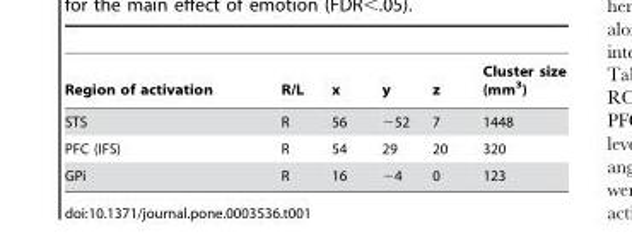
<table><thead><tr><td>Region of activation</td><td>R/L</td><td>x</td><td>y</td><td>z</td><td>Cluster size (mm<sup>3</sup>)</td></tr></thead><tbody><tr><td>STS</td><td>R</td><td>56</td><td>−52</td><td>7</td><td>1448</td></tr><tr><td>PFC (IFS)</td><td>R</td><td>54</td><td>29</td><td>20</td><td>320</td></tr><tr><td>GPi</td><td>R</td><td>16</td><td>−4</td><td>0</td><td>123</td></tr></tbody></table>